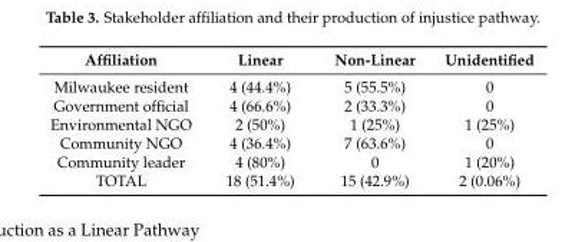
<table><thead><tr><td>Affiliation</td><td>Linear</td><td>Non-Linear</td><td>Unidentified</td></tr></thead><tbody><tr><td>Milwaukee resident</td><td>4 (44.4%)</td><td>5 (55.5%)</td><td>0</td></tr><tr><td>Government official</td><td>4 (66.6%)</td><td>2 (33.3%)</td><td>0</td></tr><tr><td>Environmental NGO</td><td>2 (50%)</td><td>1 (25%)</td><td>1 (25%)</td></tr><tr><td>Community NGO</td><td>4 (36.4%)</td><td>7 (63.6%)</td><td>0</td></tr><tr><td>Community leader</td><td>4 (80%)</td><td>0</td><td>1 (20%)</td></tr><tr><td>TOTAL</td><td>18 (51.4%)</td><td>15 (42.9%)</td><td>2 (0.06%)</td></tr></tbody></table>